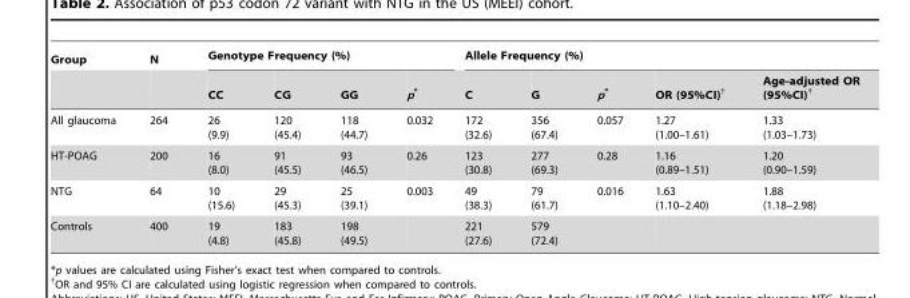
<table><thead><tr><td rowspan="2">Group</td><td rowspan="2">N</td><td colspan="4">Genotype Frequency (%)</td><td colspan="5">Allele Frequency (%)</td></tr><tr><td>CC</td><td>CG</td><td>GG</td><td>p*</td><td>C</td><td>G</td><td>p*</td><td>OR (95%CI)†</td><td>Age-adjusted OR (95%CI)†</td></tr></thead><tbody><tr><td>All glaucoma</td><td>264</td><td>26 (9.9)</td><td>120 (45.4)</td><td>118 (44.7)</td><td>0.032</td><td>172 (32.6)</td><td>356 (67.4)</td><td>0.057</td><td>1.27 (1.00–1.61)</td><td>1.33 (1.03–1.73)</td></tr><tr><td>HT-POAG</td><td>200</td><td>16 (8.0)</td><td>91 (45.5)</td><td>93 (46.5)</td><td>0.26</td><td>123 (30.8)</td><td>277 (69.3)</td><td>0.28</td><td>1.16 (0.89–1.51)</td><td>1.20 (0.90–1.59)</td></tr><tr><td>NTG</td><td>64</td><td>10 (15.6)</td><td>29 (45.3)</td><td>25 (39.1)</td><td>0.003</td><td>49 (38.3)</td><td>79 (61.7)</td><td>0.016</td><td>1.63 (1.10–2.40)</td><td>1.88 (1.18–2.98)</td></tr><tr><td>Controls</td><td>400</td><td>19 (4.8)</td><td>183 (45.8)</td><td>198 (49.5)</td><td></td><td>221 (27.6)</td><td>579 (72.4)</td><td></td><td></td><td></td></tr></tbody></table>